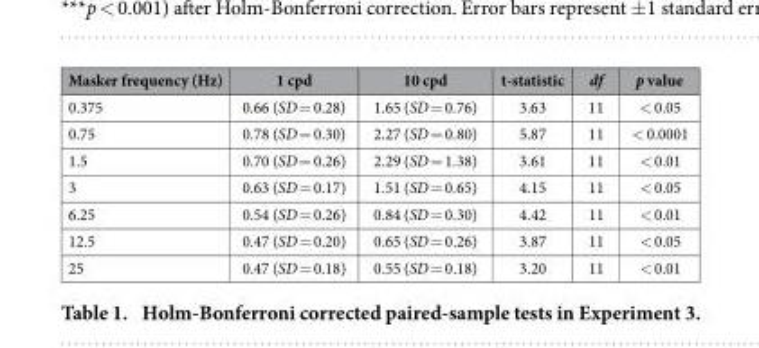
<table><thead><tr><td>Masker frequency (Hz)</td><td>1 cpd</td><td>10 cpd</td><td>t-statistic</td><td>df</td><td>p value</td></tr></thead><tbody><tr><td>0.375</td><td>0.66 (SD = 0.28)</td><td>1.65 (SD = 0.76)</td><td>3.63</td><td>11</td><td>&lt; 0.05</td></tr><tr><td>0.75</td><td>0.78 (SD = 0.30)</td><td>2.27 (SD = 0.80)</td><td>5.87</td><td>11</td><td>&lt; 0.0001</td></tr><tr><td>1.5</td><td>0.70 (SD = 0.26)</td><td>2.29 (SD = 1.38)</td><td>3.61</td><td>11</td><td>&lt; 0.01</td></tr><tr><td>3</td><td>0.63 (SD = 0.17)</td><td>1.51 (SD = 0.65)</td><td>4.15</td><td>11</td><td>&lt; 0.05</td></tr><tr><td>6.25</td><td>0.54 (SD = 0.26)</td><td>0.84 (SD = 0.30)</td><td>4.42</td><td>11</td><td>&lt; 0.01</td></tr><tr><td>12.5</td><td>0.47 (SD = 0.20)</td><td>0.65 (SD = 0.26)</td><td>3.87</td><td>11</td><td>&lt; 0.05</td></tr><tr><td>25</td><td>0.47 (SD = 0.18)</td><td>0.55 (SD = 0.18)</td><td>3.20</td><td>11</td><td>&lt; 0.01</td></tr></tbody></table>